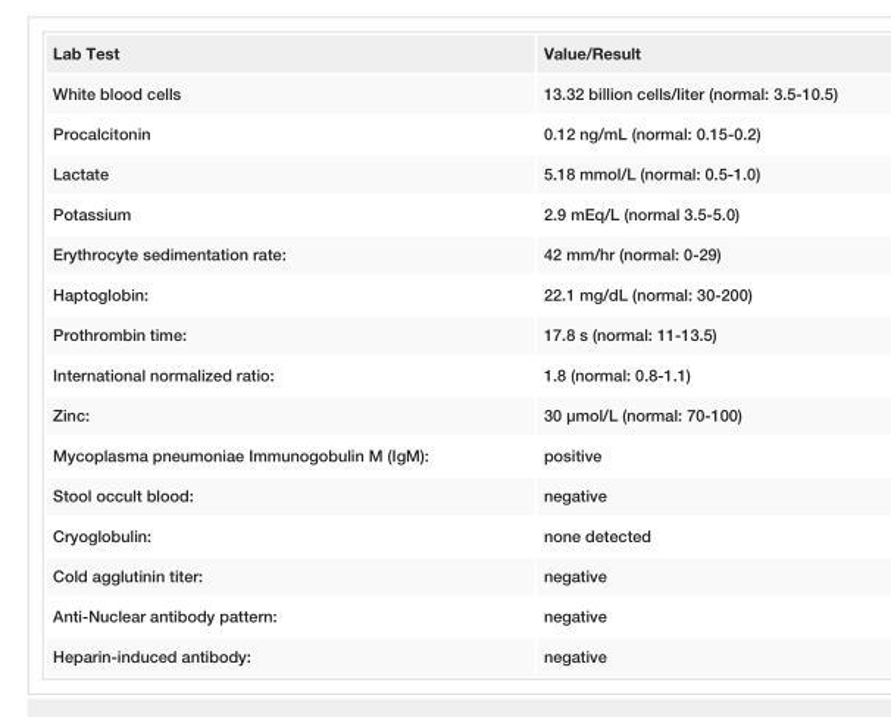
<table><tbody><tr><td>Lab Test</td><td>Value/Result</td></tr><tr><td>White blood cells</td><td>13.32 billion cells/liter (normal: 3.5-10.5)</td></tr><tr><td>Procalcitonin</td><td>0.12 ng/mL (normal: 0.15-0.2)</td></tr><tr><td>Lactate</td><td>5.18 mmol/L (normal: 0.5-1.0)</td></tr><tr><td>Potassium</td><td>2.9 mEq/L (normal 3.5-5.0)</td></tr><tr><td>Erythrocyte sedimentation rate:</td><td>42 mm/hr (normal: 0-29)</td></tr><tr><td>Haptoglobin:</td><td>22.1 mg/dL (normal: 30-200)</td></tr><tr><td>Prothrombin time:</td><td>17.8 s (normal: 11-13.5)</td></tr><tr><td>International normalized ratio:</td><td>1.8 (normal: 0.8-1.1)</td></tr><tr><td>Zinc:</td><td>30 µmol/L (normal: 70-100)</td></tr><tr><td>Mycoplasma pneumoniae Immunogobulin M (IgM):</td><td>positive</td></tr><tr><td>Stool occult blood:</td><td>negative</td></tr><tr><td>Cryoglobulin:</td><td>none detected</td></tr><tr><td>Cold agglutinin titer:</td><td>negative</td></tr><tr><td>Anti-Nuclear antibody pattern:</td><td>negative</td></tr><tr><td>Heparin-induced antibody:</td><td>negative</td></tr></tbody></table>